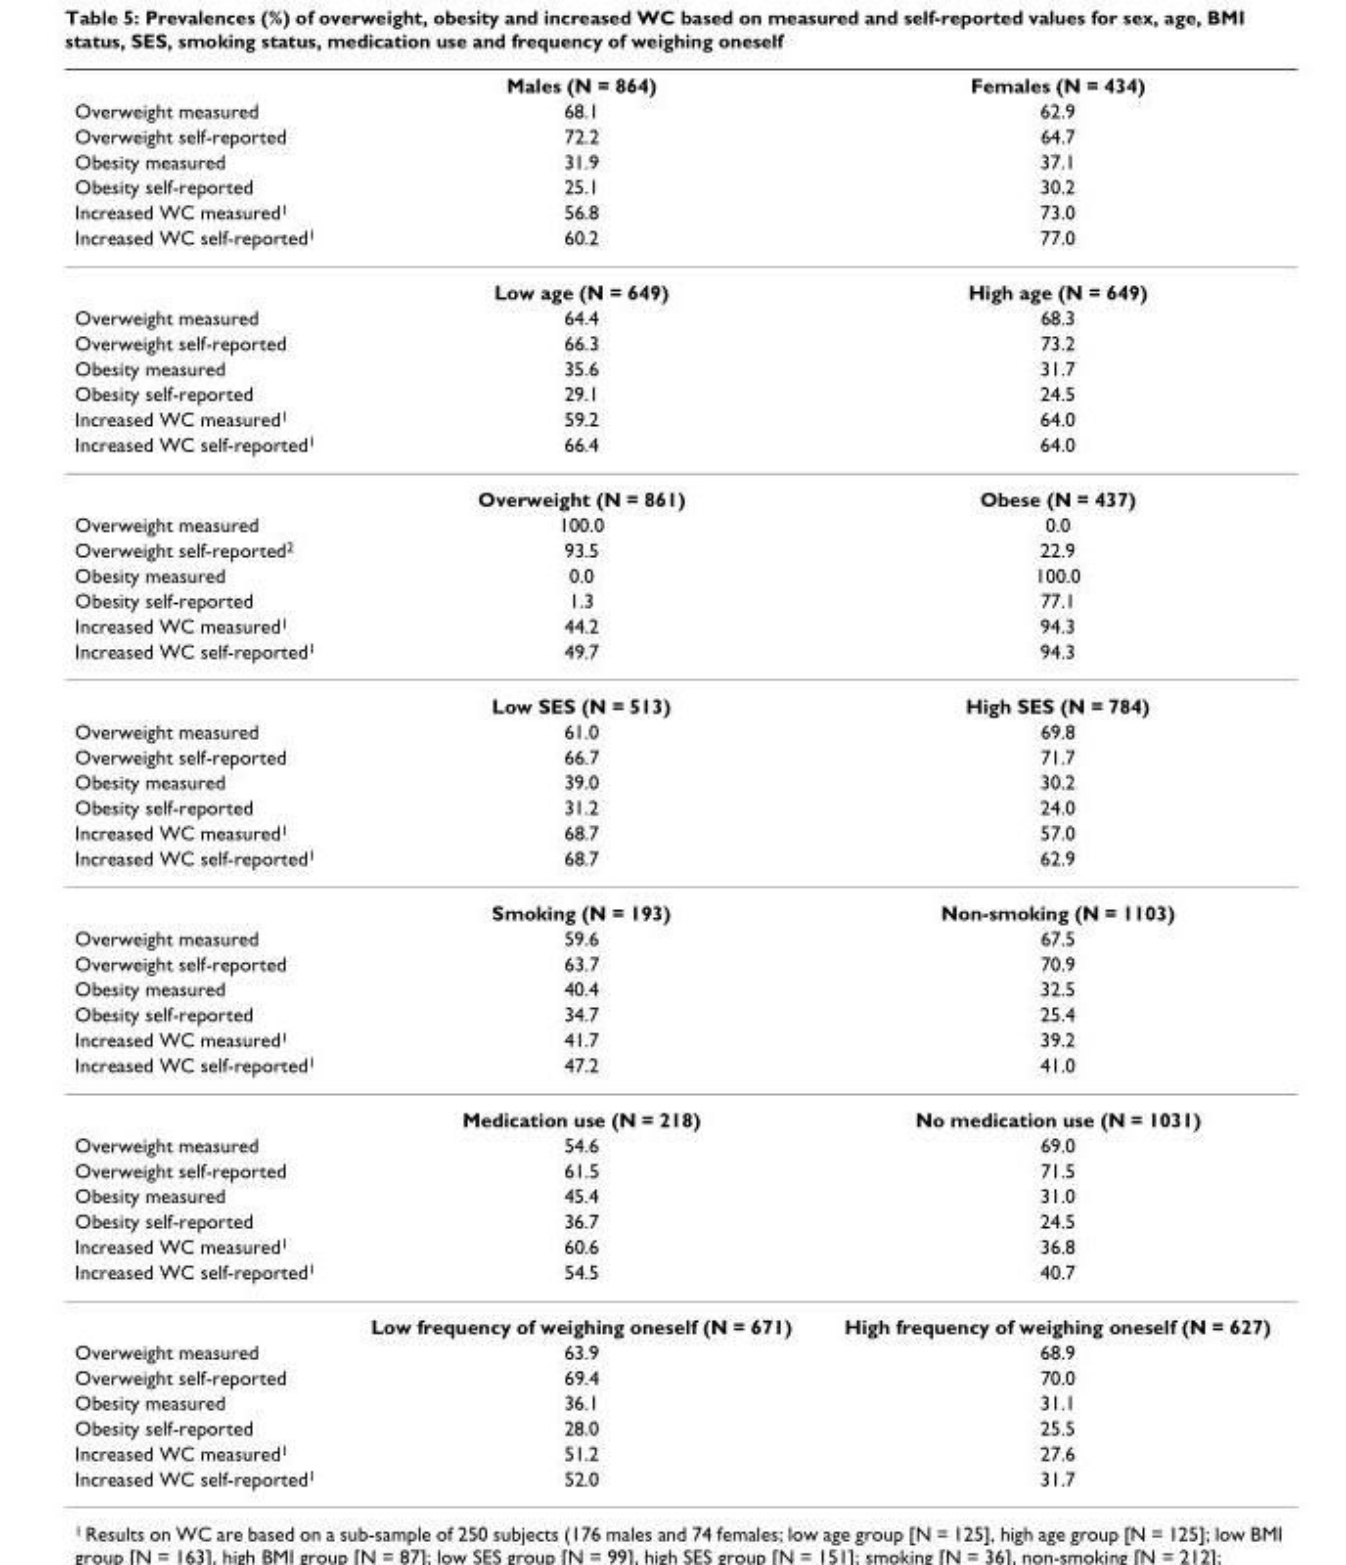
<table><thead><tr><td rowspan="7">Overweight measured Overweight self-reported Obesity measured Obesity self-reported Increased WC measured1 Increased WC self-reported1</td><td rowspan="7">Males (N = 864) 68.1 72.2 31.9 25.1 56.8 60.2</td><td rowspan="7">Females (N = 434) 62.9 64.7 37.1 30.2 73.0 77.0</td></tr><tr></tr><tr></tr><tr></tr><tr></tr><tr></tr><tr></tr></thead><tbody><tr><td></td><td>Low age (N = 649)</td><td>High age (N = 649)</td></tr><tr><td>Overweight measured</td><td>64.4</td><td>68.3</td></tr><tr><td>Overweight self-reported</td><td>66.3</td><td>73.2</td></tr><tr><td>Obesity measured</td><td>35.6</td><td>31.7</td></tr><tr><td>Obesity self-reported</td><td>29.1</td><td>24.5</td></tr><tr><td>Increased WC measured<sup>1</sup></td><td>59.2</td><td>64.0</td></tr><tr><td rowspan="2">Increased WC self-reported<sup>1</sup></td><td>66.4</td><td>64.0</td></tr><tr><td>Overweight (N = 861)</td><td>Obese (N = 437)</td></tr><tr><td>Overweight measured</td><td>100.0</td><td>0.0</td></tr><tr><td>Overweight self-reported<sup>2</sup></td><td>93.5</td><td>22.9</td></tr><tr><td>Obesity measured</td><td>0.0</td><td>100.0</td></tr><tr><td>Obesity self-reported</td><td>1.3</td><td>77.1</td></tr><tr><td>Increased WC measured<sup>1</sup></td><td>44.2</td><td>94.3</td></tr><tr><td rowspan="2">Increased WC self-reported<sup>1</sup></td><td>49.7</td><td>94.3</td></tr><tr><td>Low SES (N = 513)</td><td>High SES (N = 784)</td></tr><tr><td>Overweight measured</td><td>61.0</td><td>69.8</td></tr><tr><td>Overweight self-reported</td><td>66.7</td><td>71.7</td></tr><tr><td>Obesity measured</td><td>39.0</td><td>30.2</td></tr><tr><td>Obesity self-reported</td><td>31.2</td><td>24.0</td></tr><tr><td>Increased WC measured<sup>1</sup></td><td>68.7</td><td>57.0</td></tr><tr><td rowspan="2">Increased WC self-reported<sup>1</sup></td><td>68.7</td><td>62.9</td></tr><tr><td>Smoking (N = 193)</td><td>Non-smoking (N = 1103)</td></tr><tr><td>Overweight measured</td><td>59.6</td><td>67.5</td></tr><tr><td>Overweight self-reported</td><td>63.7</td><td>70.9</td></tr><tr><td>Obesity measured</td><td>40.4</td><td>32.5</td></tr><tr><td>Obesity self-reported</td><td>34.7</td><td>25.4</td></tr><tr><td>Increased WC measured<sup>1</sup></td><td>41.7</td><td>39.2</td></tr><tr><td rowspan="2">Increased WC self-reported<sup>1</sup></td><td>47.2</td><td>41.0</td></tr><tr><td>Medication use (N = 218)</td><td>No medication use (N = 1031)</td></tr><tr><td>Overweight measured</td><td>54.6</td><td>69.0</td></tr><tr><td>Overweight self-reported</td><td>61.5</td><td>71.5</td></tr><tr><td>Obesity measured</td><td>45.4</td><td>31.0</td></tr><tr><td>Obesity self-reported</td><td>36.7</td><td>24.5</td></tr><tr><td>Increased WC measured<sup>1</sup></td><td>60.6</td><td>36.8</td></tr><tr><td rowspan="2">Increased WC self-reported<sup>1</sup></td><td>54.5</td><td>40.7</td></tr><tr><td>Low frequency of weighing oneself (N = 671)</td><td>High frequency of weighing oneself (N = 627)</td></tr><tr><td>Overweight measured</td><td>63.9</td><td>68.9</td></tr><tr><td>Overweight self-reported</td><td>69.4</td><td>70.0</td></tr><tr><td>Obesity measured</td><td>36.1</td><td>31.1</td></tr><tr><td>Obesity self-reported</td><td>28.0</td><td>25.5</td></tr><tr><td>Increased WC measured<sup>1</sup></td><td>51.2</td><td>27.6</td></tr><tr><td>Increased WC self-reported<sup>1</sup></td><td>52.0</td><td>31.7</td></tr></tbody></table>